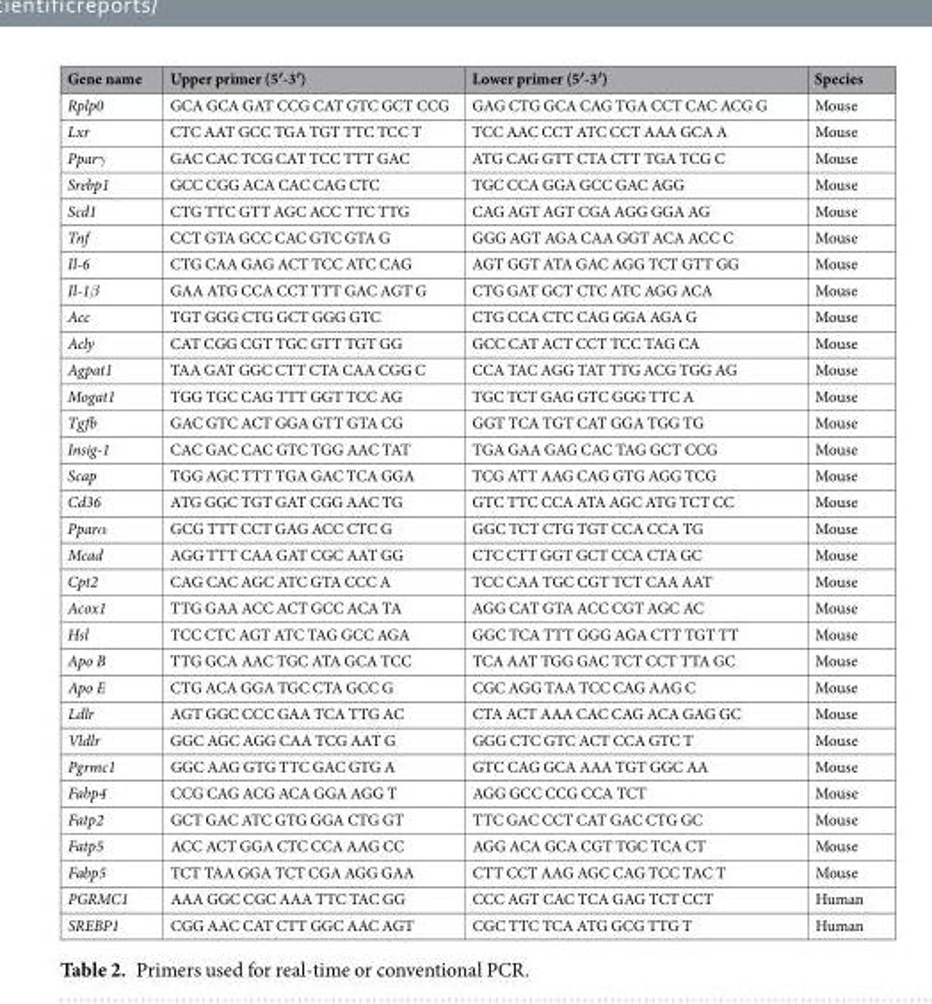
<table><thead><tr><td>Gene name</td><td>Upper primer (5′-3′)</td><td>Lower primer (5′-3′)</td><td>Species</td></tr></thead><tbody><tr><td>Rplp0</td><td>GCA GCA GAT CCG CAT GTC GCT CCG</td><td>GAG CTG GCA CAG TGA CCT CAC ACG G</td><td>Mouse</td></tr><tr><td>Lxr</td><td>CTC AAT GCC TGA TGT TTC TCC T</td><td>TCC AAC CCT ATC CCT AAA GCA A</td><td>Mouse</td></tr><tr><td>Pparγ</td><td>GAC CAC TCG CAT TCC TTT GAC</td><td>ATG CAG GTT CTA CTT TGA TCG C</td><td>Mouse</td></tr><tr><td>Srebp1</td><td>GCC CGG ACA CAC CAG CTC</td><td>TGC CCA GGA GCC GAC AGG</td><td>Mouse</td></tr><tr><td>Scd1</td><td>CTG TTC GTT AGC ACC TTC TTG</td><td>CAG AGT AGT CGA AGG GGA AG</td><td>Mouse</td></tr><tr><td>Tnf</td><td>CCT GTA GCC CAC GTC GTA G</td><td>GGG AGT AGA CAA GGT ACA ACC C</td><td>Mouse</td></tr><tr><td>Il-6</td><td>CTG CAA GAG ACT TCC ATC CAG</td><td>AGT GGT ATA GAC AGG TCT GTT GG</td><td>Mouse</td></tr><tr><td>Il-1β</td><td>GAA ATG CCA CCT TTT GAC AGT G</td><td>CTG GAT GCT CTC ATC AGG ACA</td><td>Mouse</td></tr><tr><td>Acc</td><td>TGT GGG CTG GCT GGG GTC</td><td>CTG CCA CTC CAG GGA AGA G</td><td>Mouse</td></tr><tr><td>Acly</td><td>CAT CGG CGT TGC GTT TGT GG</td><td>GCC CAT ACT CCT TCC TAG CA</td><td>Mouse</td></tr><tr><td>Agpat1</td><td>TAA GAT GGC CTT CTA CAA CGG C</td><td>CCA TAC AGG TAT TTG ACG TGG AG</td><td>Mouse</td></tr><tr><td>Mogat1</td><td>TGG TGC CAG TTT GGT TCC AG</td><td>TGC TCT GAG GTC GGG TTC A</td><td>Mouse</td></tr><tr><td>Tgfb</td><td>GAC GTC ACT GGA GTT GTA CG</td><td>GGT TCA TGT CAT GGA TGG TG</td><td>Mouse</td></tr><tr><td>Insig-1</td><td>CAC GAC CAC GTC TGG AAC TAT</td><td>TGA GAA GAG CAC TAG GCT CCG</td><td>Mouse</td></tr><tr><td>Scap</td><td>TGG AGC TTT TGA GAC TCA GGA</td><td>TCG ATT AAG CAG GTG AGG TCG</td><td>Mouse</td></tr><tr><td>Cd36</td><td>ATG GGC TGT GAT CGG AAC TG</td><td>GTC TTC CCA ATA AGC ATG TCT CC</td><td>Mouse</td></tr><tr><td>Pparα</td><td>GCG TTT CCT GAG ACC CTC G</td><td>GGC TCT CTG TGT CCA CCA TG</td><td>Mouse</td></tr><tr><td>Mcad</td><td>AGG TTT CAA GAT CGC AAT GG</td><td>CTC CTT GGT GCT CCA CTA GC</td><td>Mouse</td></tr><tr><td>Cpt2</td><td>CAG CAC AGC ATC GTA CCC A</td><td>TCC CAA TGC CGT TCT CAA AAT</td><td>Mouse</td></tr><tr><td>Acox1</td><td>TTG GAA ACC ACT GCC ACA TA</td><td>AGG CAT GTA ACC CGT AGC AC</td><td>Mouse</td></tr><tr><td>Hsl</td><td>TCC CTC AGT ATC TAG GCC AGA</td><td>GGC TCA TTT GGG AGA CTT TGT TT</td><td>Mouse</td></tr><tr><td>Apo B</td><td>TTG GCA AAC TGC ATA GCA TCC</td><td>TCA AAT TGG GAC TCT CCT TTA GC</td><td>Mouse</td></tr><tr><td>Apo E</td><td>CTG ACA GGA TGC CTA GCC G</td><td>CGC AGG TAA TCC CAG AAG C</td><td>Mouse</td></tr><tr><td>Ldlr</td><td>AGT GGC CCC GAA TCA TTG AC</td><td>CTA ACT AAA CAC CAG ACA GAG GC</td><td>Mouse</td></tr><tr><td>Vldlr</td><td>GGC AGC AGG CAA TCG AAT G</td><td>GGG CTC GTC ACT CCA GTC T</td><td>Mouse</td></tr><tr><td>Pgrmc1</td><td>GGC AAG GTG TTC GAC GTG A</td><td>GTC CAG GCA AAA TGT GGC AA</td><td>Mouse</td></tr><tr><td>Fabp4</td><td>CCG CAG ACG ACA GGA AGG T</td><td>AGG GCC CCG CCA TCT</td><td>Mouse</td></tr><tr><td>Fatp2</td><td>GCT GAC ATC GTG GGA CTG GT</td><td>TTC GAC CCT CAT GAC CTG GC</td><td>Mouse</td></tr><tr><td>Fatp5</td><td>ACC ACT GGA CTC CCA AAG CC</td><td>AGG ACA GCA CGT TGC TCA CT</td><td>Mouse</td></tr><tr><td>Fabp5</td><td>TCT TAA GGA TCT CGA AGG GAA</td><td>CTT CCT AAG AGC CAG TCC TAC T</td><td>Mouse</td></tr><tr><td>PGRMC1</td><td>AAA GGC CGC AAA TTC TAC GG</td><td>CCC AGT CAC TCA GAG TCT CCT</td><td>Human</td></tr><tr><td>SREBP1</td><td>CGG AAC CAT CTT GGC AAC AGT</td><td>CGC TTC TCA ATG GCG TTG T</td><td>Human</td></tr></tbody></table>